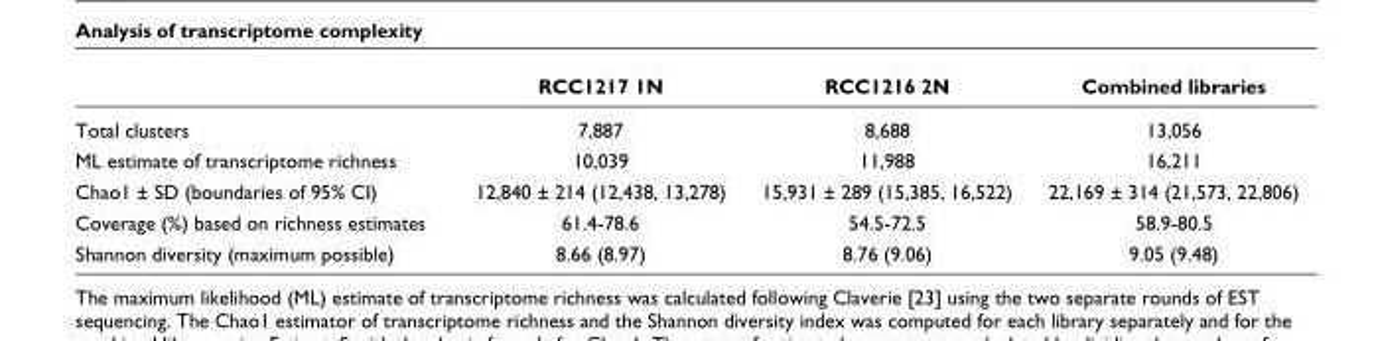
<table><thead><tr><td></td><td>RCC1217 1N</td><td>RCC1216 2N</td><td>Combined libraries</td></tr></thead><tbody><tr><td>Total clusters</td><td>7,887</td><td>8,688</td><td>13,056</td></tr><tr><td>ML estimate of transcriptome richness</td><td>10,039</td><td>11,988</td><td>16,211</td></tr><tr><td>Chao1 ± SD (boundaries of 95% CI)</td><td>12,840 ± 214 (12,438, 13,278)</td><td>15,931 ± 289 (15,385, 16,522)</td><td>22,169 ± 314 (21,573, 22,806)</td></tr><tr><td>Coverage (%) based on richness estimates</td><td>61.4-78.6</td><td>54.5-72.5</td><td>58.9-80.5</td></tr><tr><td>Shannon diversity (maximum possible)</td><td>8.66 (8.97)</td><td>8.76 (9.06)</td><td>9.05 (9.48)</td></tr></tbody></table>